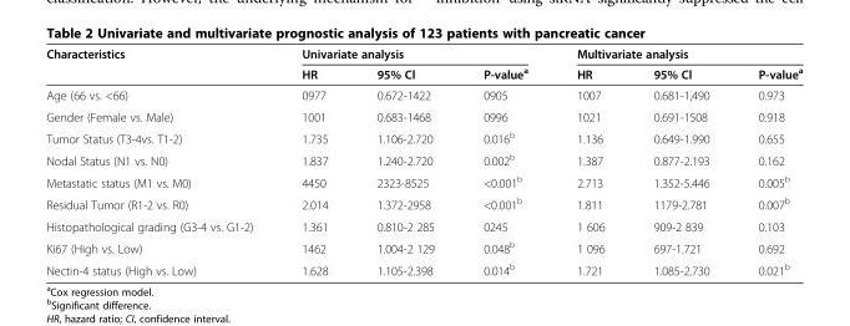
<table><thead><tr><td rowspan="2">Characteristics</td><td colspan="3">Univariate analysis</td><td colspan="3">Multivariate analysis</td></tr><tr><td>HR</td><td>95% Cl</td><td>P-value<sup>a</sup></td><td>HR</td><td>95% Cl</td><td>P-value<sup>a</sup></td></tr></thead><tbody><tr><td>Age (66 vs. &lt;66)</td><td>0977</td><td>0.672-1422</td><td>0905</td><td>1007</td><td>0.681-1,490</td><td>0.973</td></tr><tr><td>Gender (Female vs. Male)</td><td>1001</td><td>0.683-1468</td><td>0996</td><td>1021</td><td>0.691-1508</td><td>0.918</td></tr><tr><td>Tumor Status (T3-4vs. T1-2)</td><td>1.735</td><td>1.106-2.720</td><td>0.016<sup>b</sup></td><td>1.136</td><td>0.649-1.990</td><td>0.655</td></tr><tr><td>Nodal Status (N1 vs. N0)</td><td>1.837</td><td>1.240-2.720</td><td>0.002<sup>b</sup></td><td>1.387</td><td>0.877-2.193</td><td>0.162</td></tr><tr><td>Metastatic status (M1 vs. M0)</td><td>4450</td><td>2323-8525</td><td>&lt;0.001<sup>b</sup></td><td>2.713</td><td>1.352-5.446</td><td>0.005<sup>b</sup></td></tr><tr><td>Residual Tumor (R1-2 vs. R0)</td><td>2.014</td><td>1.372-2958</td><td>&lt;0.001<sup>b</sup></td><td>1.811</td><td>1179-2.781</td><td>0.007<sup>b</sup></td></tr><tr><td>Histopathological grading (G3-4 vs. G1-2)</td><td>1.361</td><td>0.810-2 285</td><td>0245</td><td>1 606</td><td>909-2 839</td><td>0.103</td></tr><tr><td>Ki67 (High vs. Low)</td><td>1462</td><td>1.004-2 129</td><td>0.048<sup>b</sup></td><td>1 096</td><td>697-1.721</td><td>0.692</td></tr><tr><td>Nectin-4 status (High vs. Low)</td><td>1.628</td><td>1.105-2.398</td><td>0.014<sup>b</sup></td><td>1.721</td><td>1.085-2.730</td><td>0.021<sup>b</sup></td></tr></tbody></table>